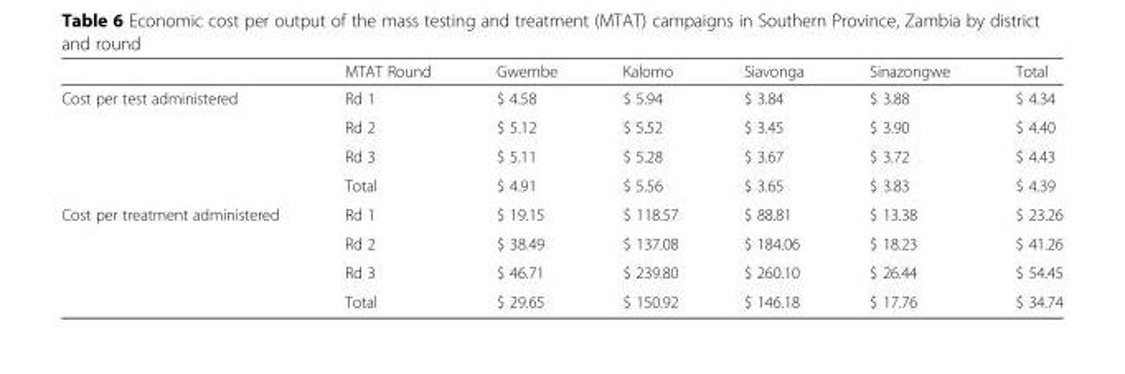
<table><thead><tr><td></td><td>MTAT Round</td><td>Gwembe</td><td>Kalomo</td><td>Siavonga</td><td>Sinazongwe</td><td>Total</td></tr></thead><tbody><tr><td rowspan="4">Cost per test administered</td><td>Rd 1</td><td>$ 4.58</td><td>$ 5.94</td><td>$ 3.84</td><td>$ 3.88</td><td>$ 4.34</td></tr><tr><td>Rd 2</td><td>$ 5.12</td><td>$ 5.52</td><td>$ 3.45</td><td>$ 3.90</td><td>$ 4.40</td></tr><tr><td>Rd 3</td><td>$ 5.11</td><td>$ 5.28</td><td>$ 3.67</td><td>$ 3.72</td><td>$ 4.43</td></tr><tr><td>Total</td><td>$ 4.91</td><td>$ 5.56</td><td>$ 3.65</td><td>$ 3.83</td><td>$ 4.39</td></tr><tr><td rowspan="4">Cost per treatment administered</td><td>Rd 1</td><td>$ 19.15</td><td>$ 118.57</td><td>$ 88.81</td><td>$ 13.38</td><td>$ 23.26</td></tr><tr><td>Rd 2</td><td>$ 38.49</td><td>$ 137.08</td><td>$ 184.06</td><td>$ 18.23</td><td>$ 41.26</td></tr><tr><td>Rd 3</td><td>$ 46.71</td><td>$ 239.80</td><td>$ 260.10</td><td>$ 26.44</td><td>$ 54.45</td></tr><tr><td>Total</td><td>$ 29.65</td><td>$ 150.92</td><td>$ 146.18</td><td>$ 17.76</td><td>$ 34.74</td></tr></tbody></table>